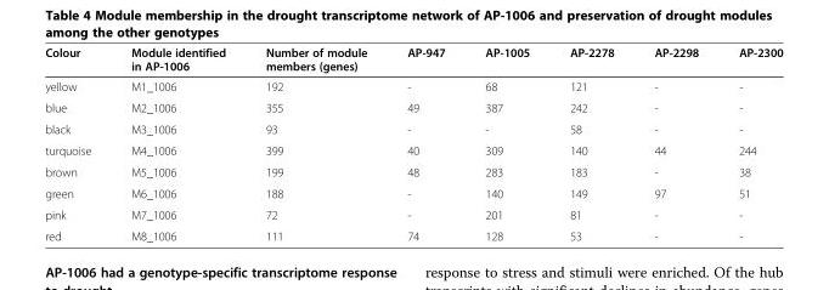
<table><thead><tr><td>Colour</td><td>Module identified in AP-1006</td><td>Number of module members (genes)</td><td>AP-947</td><td>AP-1005</td><td>AP-2278</td><td>AP-2298</td><td>AP-2300</td></tr></thead><tbody><tr><td>yellow</td><td>M1_1006</td><td>192</td><td>-</td><td>68</td><td>121</td><td>-</td><td>-</td></tr><tr><td>blue</td><td>M2_1006</td><td>355</td><td>49</td><td>387</td><td>242</td><td>-</td><td>-</td></tr><tr><td>black</td><td>M3_1006</td><td>93</td><td>-</td><td>-</td><td>58</td><td>-</td><td>-</td></tr><tr><td>turquoise</td><td>M4_1006</td><td>399</td><td>40</td><td>309</td><td>140</td><td>44</td><td>244</td></tr><tr><td>brown</td><td>M5_1006</td><td>199</td><td>48</td><td>283</td><td>183</td><td>-</td><td>38</td></tr><tr><td>green</td><td>M6_1006</td><td>188</td><td>-</td><td>140</td><td>149</td><td>97</td><td>51</td></tr><tr><td>pink</td><td>M7_1006</td><td>72</td><td>-</td><td>201</td><td>81</td><td>-</td><td>-</td></tr><tr><td>red</td><td>M8_1006</td><td>111</td><td>74</td><td>128</td><td>53</td><td>-</td><td>-</td></tr></tbody></table>